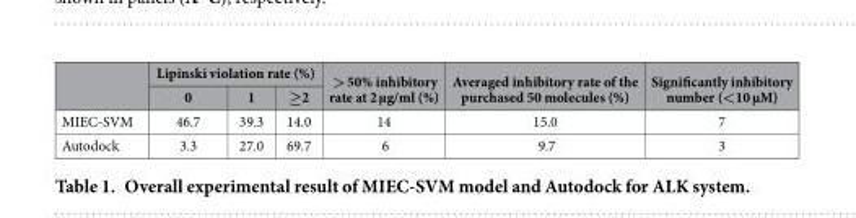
<table><thead><tr><td rowspan="2"></td><td colspan="3">Lipinski violation rate (%)</td><td rowspan="2">&gt; 50% inhibitory rate at 2 μg/ml (%)</td><td rowspan="2">Averaged inhibitory rate of the purchased 50 molecules (%)</td><td rowspan="2">Significantly inhibitory number (&lt;10 μM)</td></tr><tr><td>0</td><td>1</td><td>≥2</td></tr></thead><tbody><tr><td>MIEC-SVM</td><td>46.7</td><td>39.3</td><td>14.0</td><td>14</td><td>15.0</td><td>7</td></tr><tr><td>Autodock</td><td>3.3</td><td>27.0</td><td>69.7</td><td>6</td><td>9.7</td><td>3</td></tr></tbody></table>